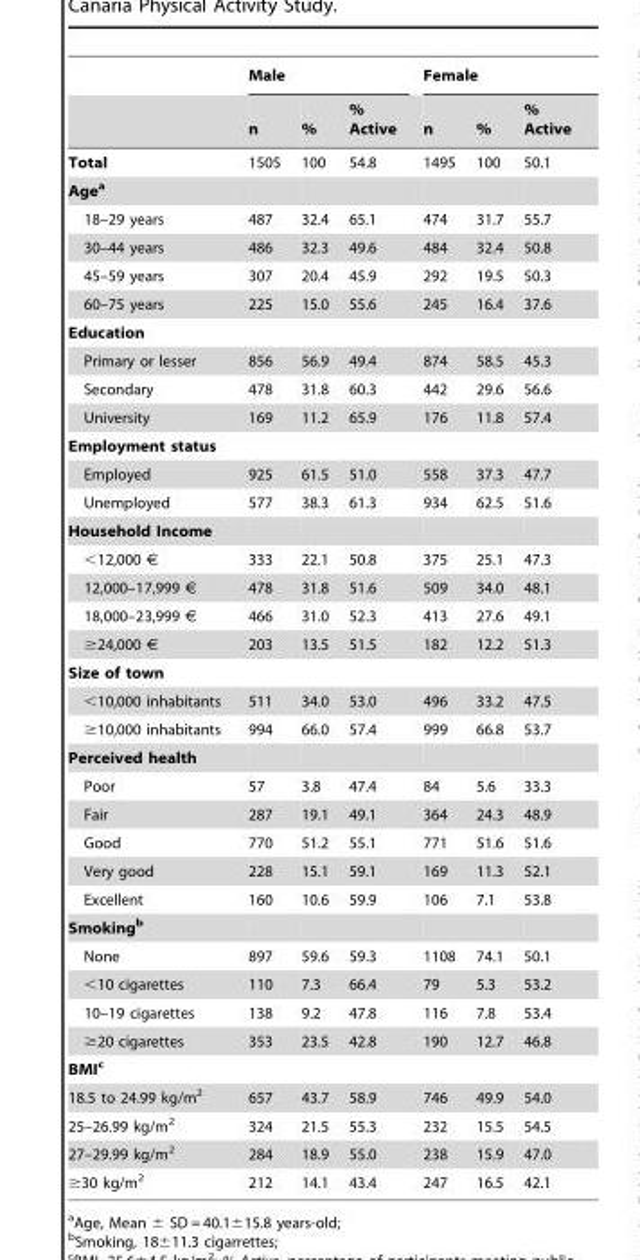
<table><thead><tr><td rowspan="2"></td><td colspan="3">Male</td><td colspan="3">Female</td></tr><tr><td>n</td><td>%</td><td>% Active</td><td>n</td><td>%</td><td>% Active</td></tr></thead><tbody><tr><td>Total</td><td>1505</td><td>100</td><td>54.8</td><td>1495</td><td>100</td><td>50.1</td></tr><tr><td colspan="7">Agea</td></tr><tr><td>18–29 years</td><td>487</td><td>32.4</td><td>65.1</td><td>474</td><td>31.7</td><td>55.7</td></tr><tr><td>30–44 years</td><td>486</td><td>32.3</td><td>49.6</td><td>484</td><td>32.4</td><td>50.8</td></tr><tr><td>45–59 years</td><td>307</td><td>20.4</td><td>45.9</td><td>292</td><td>19.5</td><td>50.3</td></tr><tr><td>60–75 years</td><td>225</td><td>15.0</td><td>55.6</td><td>245</td><td>16.4</td><td>37.6</td></tr><tr><td colspan="7">Education</td></tr><tr><td>Primary or lesser</td><td>856</td><td>56.9</td><td>49.4</td><td>874</td><td>58.5</td><td>45.3</td></tr><tr><td>Secondary</td><td>478</td><td>31.8</td><td>60.3</td><td>442</td><td>29.6</td><td>56.6</td></tr><tr><td>University</td><td>169</td><td>11.2</td><td>65.9</td><td>176</td><td>11.8</td><td>57.4</td></tr><tr><td colspan="7">Employment status</td></tr><tr><td>Employed</td><td>925</td><td>61.5</td><td>51.0</td><td>558</td><td>37.3</td><td>47.7</td></tr><tr><td>Unemployed</td><td>577</td><td>38.3</td><td>61.3</td><td>934</td><td>62.5</td><td>51.6</td></tr><tr><td colspan="7">Household Income</td></tr><tr><td>&lt;12,000 €</td><td>333</td><td>22.1</td><td>50.8</td><td>375</td><td>25.1</td><td>47.3</td></tr><tr><td>12,000–17,999 €</td><td>478</td><td>31.8</td><td>51.6</td><td>509</td><td>34.0</td><td>48.1</td></tr><tr><td>18,000–23,999 €</td><td>466</td><td>31.0</td><td>52.3</td><td>413</td><td>27.6</td><td>49.1</td></tr><tr><td>≥24,000 €</td><td>203</td><td>13.5</td><td>51.5</td><td>182</td><td>12.2</td><td>51.3</td></tr><tr><td colspan="7">Size of town</td></tr><tr><td>&lt;10,000 inhabitants</td><td>511</td><td>34.0</td><td>53.0</td><td>496</td><td>33.2</td><td>47.5</td></tr><tr><td>≥10,000 inhabitants</td><td>994</td><td>66.0</td><td>57.4</td><td>999</td><td>66.8</td><td>53.7</td></tr><tr><td colspan="7">Perceived health</td></tr><tr><td>Poor</td><td>57</td><td>3.8</td><td>47.4</td><td>84</td><td>5.6</td><td>33.3</td></tr><tr><td>Fair</td><td>287</td><td>19.1</td><td>49.1</td><td>364</td><td>24.3</td><td>48.9</td></tr><tr><td>Good</td><td>770</td><td>51.2</td><td>55.1</td><td>771</td><td>51.6</td><td>51.6</td></tr><tr><td>Very good</td><td>228</td><td>15.1</td><td>59.1</td><td>169</td><td>11.3</td><td>52.1</td></tr><tr><td>Excellent</td><td>160</td><td>10.6</td><td>59.9</td><td>106</td><td>7.1</td><td>53.8</td></tr><tr><td colspan="7">Smokingb</td></tr><tr><td>None</td><td>897</td><td>59.6</td><td>59.3</td><td>1108</td><td>74.1</td><td>50.1</td></tr><tr><td>&lt;10 cigarettes</td><td>110</td><td>7.3</td><td>66.4</td><td>79</td><td>5.3</td><td>53.2</td></tr><tr><td>10–19 cigarettes</td><td>138</td><td>9.2</td><td>47.8</td><td>116</td><td>7.8</td><td>53.4</td></tr><tr><td>≥20 cigarettes</td><td>353</td><td>23.5</td><td>42.8</td><td>190</td><td>12.7</td><td>46.8</td></tr><tr><td colspan="7">BMIc</td></tr><tr><td>18.5 to 24.99 kg/m<sup>2</sup></td><td>657</td><td>43.7</td><td>58.9</td><td>746</td><td>49.9</td><td>54.0</td></tr><tr><td>25–26.99 kg/m<sup>2</sup></td><td>324</td><td>21.5</td><td>55.3</td><td>232</td><td>15.5</td><td>54.5</td></tr><tr><td>27–29.99 kg/m<sup>2</sup></td><td>284</td><td>18.9</td><td>55.0</td><td>238</td><td>15.9</td><td>47.0</td></tr><tr><td>≥30 kg/m<sup>2</sup></td><td>212</td><td>14.1</td><td>43.4</td><td>247</td><td>16.5</td><td>42.1</td></tr></tbody></table>